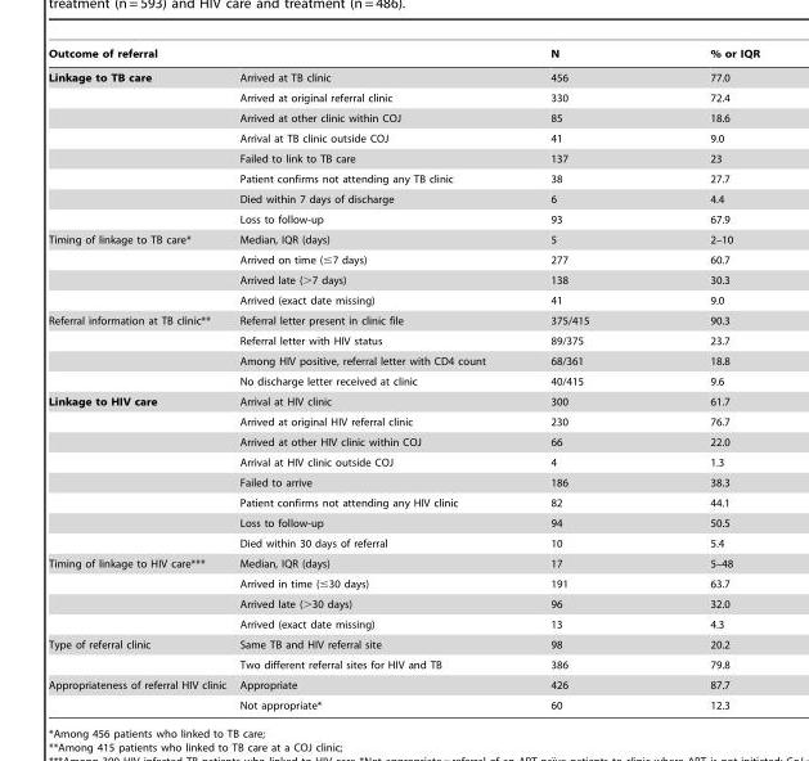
<table><thead><tr><td>Outcome of referral</td><td></td><td>N</td><td>% or IQR</td></tr></thead><tbody><tr><td rowspan="8">Linkage to TB care</td><td>Arrived at TB clinic</td><td>456</td><td>77.0</td></tr><tr><td>Arrived at original referral clinic</td><td>330</td><td>72.4</td></tr><tr><td>Arrived at other clinic within COJ</td><td>85</td><td>18.6</td></tr><tr><td>Arrival at TB clinic outside COJ</td><td>41</td><td>9.0</td></tr><tr><td>Failed to link to TB care</td><td>137</td><td>23</td></tr><tr><td>Patient confirms not attending any TB clinic</td><td>38</td><td>27.7</td></tr><tr><td>Died within 7 days of discharge</td><td>6</td><td>4.4</td></tr><tr><td>Loss to follow-up</td><td>93</td><td>67.9</td></tr><tr><td rowspan="4">Timing of linkage to TB care*</td><td>Median, IQR (days)</td><td>5</td><td>2–10</td></tr><tr><td>Arrived on time (≤7 days)</td><td>277</td><td>60.7</td></tr><tr><td>Arrived late (&gt;7 days)</td><td>138</td><td>30.3</td></tr><tr><td>Arrived (exact date missing)</td><td>41</td><td>9.0</td></tr><tr><td rowspan="4">Referral information at TB clinic**</td><td>Referral letter present in clinic file</td><td>375/415</td><td>90.3</td></tr><tr><td>Referral letter with HIV status</td><td>89/375</td><td>23.7</td></tr><tr><td>Among HIV positive, referral letter with CD4 count</td><td>68/361</td><td>18.8</td></tr><tr><td>No discharge letter received at clinic</td><td>40/415</td><td>9.6</td></tr><tr><td rowspan="8">Linkage to HIV care</td><td>Arrival at HIV clinic</td><td>300</td><td>61.7</td></tr><tr><td>Arrived at original HIV referral clinic</td><td>230</td><td>76.7</td></tr><tr><td>Arrived at other HIV clinic within COJ</td><td>66</td><td>22.0</td></tr><tr><td>Arrival at HIV clinic outside COJ</td><td>4</td><td>1.3</td></tr><tr><td>Failed to arrive</td><td>186</td><td>38.3</td></tr><tr><td>Patient confirms not attending any HIV clinic</td><td>82</td><td>44.1</td></tr><tr><td>Loss to follow-up</td><td>94</td><td>50.5</td></tr><tr><td>Died within 30 days of referral</td><td>10</td><td>5.4</td></tr><tr><td rowspan="4">Timing of linkage to HIV care***</td><td>Median, IQR (days)</td><td>17</td><td>5–48</td></tr><tr><td>Arrived in time (≤30 days)</td><td>191</td><td>63.7</td></tr><tr><td>Arrived late (&gt;30 days)</td><td>96</td><td>32.0</td></tr><tr><td>Arrived (exact date missing)</td><td>13</td><td>4.3</td></tr><tr><td rowspan="2">Type of referral clinic</td><td>Same TB and HIV referral site</td><td>98</td><td>20.2</td></tr><tr><td>Two different referral sites for HIV and TB</td><td>386</td><td>79.8</td></tr><tr><td rowspan="2">Appropriateness of referral HIV clinic</td><td>Appropriate</td><td>426</td><td>87.7</td></tr><tr><td>Not appropriate*</td><td>60</td><td>12.3</td></tr></tbody></table>